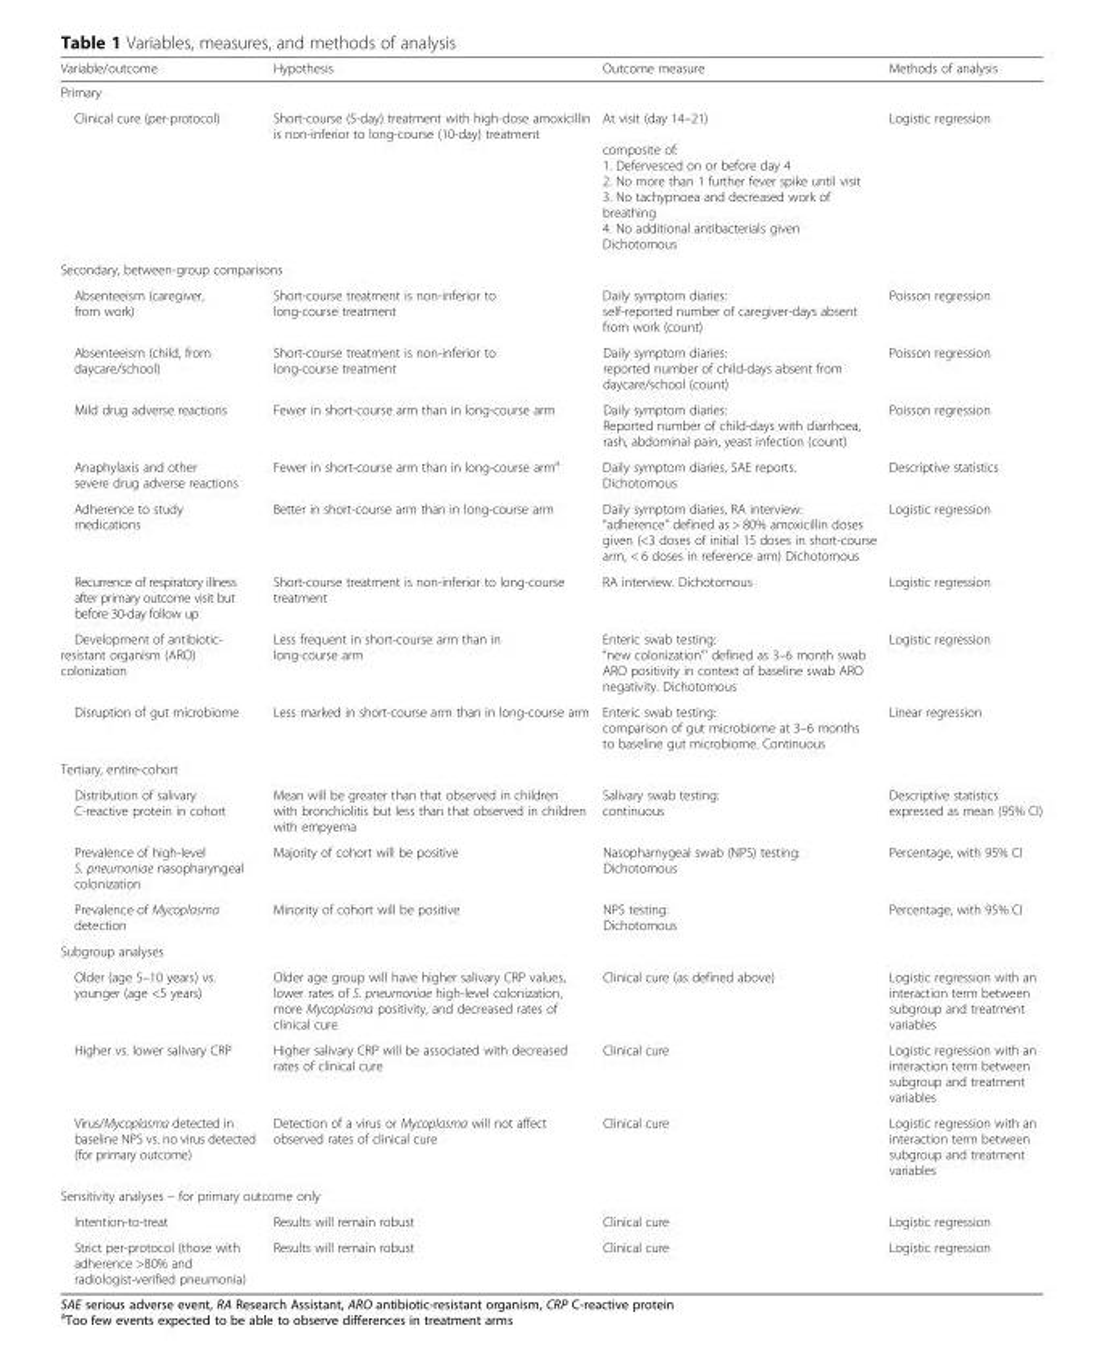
<table><thead><tr><td>Variable/outcome</td><td>Hypothesis</td><td>Outcome measure</td><td>Methods of analysis</td></tr></thead><tbody><tr><td colspan="4">Primary</td></tr><tr><td>Clinical cure (per-protocol)</td><td>Short-course (5-day) treatment with high-dose amoxicillin is non-inferior to long-course (10-day) treatment</td><td>At visit (day 14–21) composite of: 1. Defervesced on or before day 4 2. No more than 1 further fever spike until visit 3. No tachypnoea and decreased work of breathing 4. No additional antibacterials given Dichotomous</td><td>Logistic regression</td></tr><tr><td colspan="4">Secondary, between-group comparisons</td></tr><tr><td>Absenteeism (caregiver, from work)</td><td>Short-course treatment is non-inferior to long-course treatment</td><td>Daily symptom diaries: self-reported number of caregiver-days absent from work (count)</td><td>Poisson regression</td></tr><tr><td>Absenteeism (child, from daycare/school)</td><td>Short-course treatment is non-inferior to long-course treatment</td><td>Daily symptom diaries: reported number of child-days absent from daycare/school (count)</td><td>Poisson regression</td></tr><tr><td>Mild drug adverse reactions</td><td>Fewer in short-course arm than in long-course arm</td><td>Daily symptom diaries: Reported number of child-days with diarrhoea, rash, abdominal pain, yeast infection (count)</td><td>Poisson regression</td></tr><tr><td>Anaphylaxis and other severe drug adverse reactions</td><td>Fewer in short-course arm than in long-course arm<sup>a</sup></td><td>Daily symptom diaries, SAE reports. Dichotomous</td><td>Descriptive statistics</td></tr><tr><td>Adherence to study medications</td><td>Better in short-course arm than in long-course arm</td><td>Daily symptom diaries, RA interview: “adherence” defined as &gt; 80% amoxicillin doses given (&lt;3 doses of initial 15 doses in short-course arm, &lt; 6 doses in reference arm) Dichotomous</td><td>Logistic regression</td></tr><tr><td>Recurrence of respiratory illness after primary outcome visit but before 30-day follow up</td><td>Short-course treatment is non-inferior to long-course treatment</td><td>RA interview. Dichotomous</td><td>Logistic regression</td></tr><tr><td>Development of antibiotic- resistant organism (ARO) colonization</td><td>Less frequent in short-course arm than in long-course arm</td><td>Enteric swab testing: “new colonization”’ defined as 3–6 month swab ARO positivity in context of baseline swab ARO negativity. Dichotomous</td><td>Logistic regression</td></tr><tr><td>Disruption of gut microbiome</td><td>Less marked in short-course arm than in long-course arm</td><td>Enteric swab testing: comparison of gut microbiome at 3–6 months to baseline gut microbiome. Continuous</td><td>Linear regression</td></tr><tr><td colspan="4">Tertiary, entire-cohort</td></tr><tr><td>Distribution of salivary C-reactive protein in cohort</td><td>Mean will be greater than that observed in children with bronchiolitis but less than that observed in children with empyema</td><td>Salivary swab testing: continuous</td><td>Descriptive statistics expressed as mean (95% CI)</td></tr><tr><td>Prevalence of high-level S. pneumoniae nasopharyngeal colonization</td><td>Majority of cohort will be positive</td><td>Nasopharnygeal swab (NPS) testing: Dichotomous</td><td>Percentage, with 95% CI</td></tr><tr><td>Prevalence of Mycoplasma detection</td><td>Minority of cohort will be positive</td><td>NPS testing: Dichotomous</td><td>Percentage, with 95% CI</td></tr><tr><td colspan="4">Subgroup analyses</td></tr><tr><td>Older (age 5–10 years) vs. younger (age &lt;5 years)</td><td>Older age group will have higher salivary CRP values, lower rates of S. pneumoniae high-level colonization, more Mycoplasma positivity, and decreased rates of clinical cure</td><td>Clinical cure (as defined above)</td><td>Logistic regression with an interaction term between subgroup and treatment variables</td></tr><tr><td>Higher vs. lower salivary CRP</td><td>Higher salivary CRP will be associated with decreased rates of clinical cure</td><td>Clinical cure</td><td>Logistic regression with an interaction term between subgroup and treatment variables</td></tr><tr><td>Virus/Mycoplasma detected in baseline NPS vs. no virus detected (for primary outcome)</td><td>Detection of a virus or Mycoplasma will not affect observed rates of clinical cure</td><td>Clinical cure</td><td>Logistic regression with an interaction term between subgroup and treatment variables</td></tr><tr><td colspan="4">Sensitivity analyses – for primary outcome only</td></tr><tr><td>Intention-to-treat</td><td>Results will remain robust</td><td>Clinical cure</td><td>Logistic regression</td></tr><tr><td>Strict per-protocol (those with adherence &gt;80% and radiologist-verified pneumonia)</td><td>Results will remain robust</td><td>Clinical cure</td><td>Logistic regression</td></tr></tbody></table>